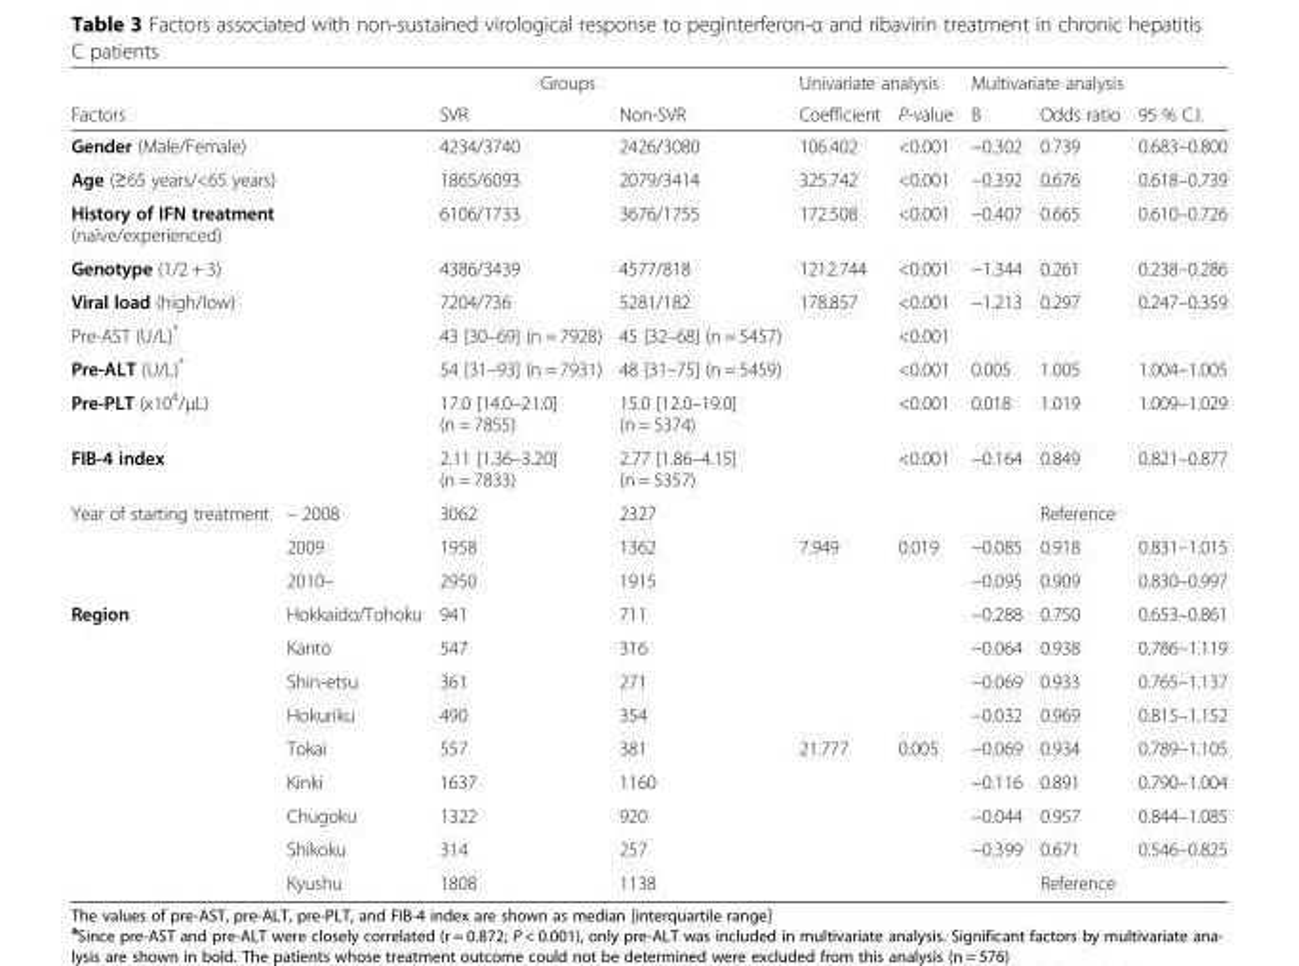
<table><thead><tr><td></td><td></td><td colspan="2">Groups</td><td colspan="2">Univariate analysis</td><td colspan="3">Multivariate analysis</td></tr><tr><td colspan="2">Factors</td><td>SVR</td><td>Non-SVR</td><td>Coefficient</td><td>P-value</td><td>B</td><td>Odds ratio</td><td>95 % C.I.</td></tr></thead><tbody><tr><td colspan="2">Gender (Male/Female)</td><td>4234/3740</td><td>2426/3080</td><td>106.402</td><td>&lt;0.001</td><td>−0.302</td><td>0.739</td><td>0.683–0.800</td></tr><tr><td colspan="2">Age (≥65 years/&lt;65 years)</td><td>1865/6093</td><td>2079/3414</td><td>325.742</td><td>&lt;0.001</td><td>−0.392</td><td>0.676</td><td>0.618–0.739</td></tr><tr><td colspan="2">History of IFN treatment (naïve/experienced)</td><td>6106/1733</td><td>3676/1755</td><td>172.508</td><td>&lt;0.001</td><td>−0.407</td><td>0.665</td><td>0.610–0.726</td></tr><tr><td colspan="2">Genotype (1/2 + 3)</td><td>4386/3439</td><td>4577/818</td><td>1212.744</td><td>&lt;0.001</td><td>−1.344</td><td>0.261</td><td>0.238–0.286</td></tr><tr><td colspan="2">Viral load (high/low)</td><td>7204/736</td><td>5281/182</td><td>178.857</td><td>&lt;0.001</td><td>−1.213</td><td>0.297</td><td>0.247–0.359</td></tr><tr><td colspan="2">Pre-AST (U/L)*</td><td>43 [30–69] (n = 7928)</td><td>45 [32–68] (n = 5457)</td><td></td><td>&lt;0.001</td><td></td><td></td><td></td></tr><tr><td colspan="2">Pre-ALT (U/L)*</td><td>54 [31–93] (n = 7931)</td><td>48 [31–75] (n = 5459)</td><td></td><td>&lt;0.001</td><td>0.005</td><td>1.005</td><td>1.004–1.005</td></tr><tr><td colspan="2">Pre-PLT (x10<sup>4</sup>/μL)</td><td>17.0 [14.0–21.0] (n = 7855)</td><td>15.0 [12.0–19.0] (n = 5374)</td><td></td><td>&lt;0.001</td><td>0.018</td><td>1.019</td><td>1.009–1.029</td></tr><tr><td colspan="2">FIB-4 index</td><td>2.11 [1.36–3.20] (n = 7833)</td><td>2.77 [1.86–4.15] (n = 5357)</td><td></td><td>&lt;0.001</td><td>−0.164</td><td>0.849</td><td>0.821–0.877</td></tr><tr><td rowspan="3">Year of starting treatment</td><td>– 2008</td><td>3062</td><td>2327</td><td></td><td></td><td></td><td>Reference</td><td></td></tr><tr><td>2009</td><td>1958</td><td>1362</td><td rowspan="2">7.949</td><td rowspan="2">0.019</td><td>−0.085</td><td>0.918</td><td>0.831–1.015</td></tr><tr><td>2010–</td><td>2950</td><td>1915</td><td>−0.095</td><td>0.909</td><td>0.830–0.997</td></tr><tr><td rowspan="9">Region</td><td>Hokkaido/Tohoku</td><td>941</td><td>711</td><td></td><td></td><td>−0.288</td><td>0.750</td><td>0.653–0.861</td></tr><tr><td>Kanto</td><td>547</td><td>316</td><td></td><td></td><td>−0.064</td><td>0.938</td><td>0.786–1.119</td></tr><tr><td>Shin-etsu</td><td>361</td><td>271</td><td></td><td></td><td>−0.069</td><td>0.933</td><td>0.765–1.137</td></tr><tr><td>Hokuriku</td><td>490</td><td>354</td><td></td><td></td><td>−0.032</td><td>0.969</td><td>0.815–1.152</td></tr><tr><td>Tokai</td><td>557</td><td>381</td><td>21.777</td><td>0.005</td><td>−0.069</td><td>0.934</td><td>0.789–1.105</td></tr><tr><td>Kinki</td><td>1637</td><td>1160</td><td></td><td></td><td>−0.116</td><td>0.891</td><td>0.790–1.004</td></tr><tr><td>Chugoku</td><td>1322</td><td>920</td><td></td><td></td><td>−0.044</td><td>0.957</td><td>0.844–1.085</td></tr><tr><td>Shikoku</td><td>314</td><td>257</td><td></td><td></td><td>−0.399</td><td>0.671</td><td>0.546–0.825</td></tr><tr><td>Kyushu</td><td>1808</td><td>1138</td><td></td><td></td><td></td><td>Reference</td><td></td></tr></tbody></table>